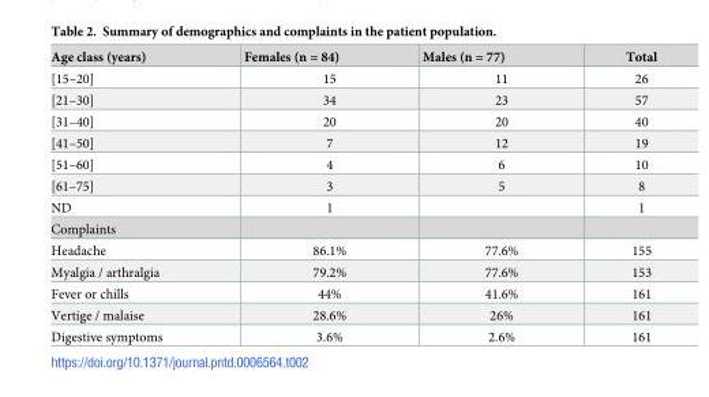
<table><thead><tr><td>Age class (years)</td><td>Females (n = 84)</td><td>Males (n = 77)</td><td>Total</td></tr></thead><tbody><tr><td>[15–20]</td><td>15</td><td>11</td><td>26</td></tr><tr><td>[21–30]</td><td>34</td><td>23</td><td>57</td></tr><tr><td>[31–40]</td><td>20</td><td>20</td><td>40</td></tr><tr><td>[41–50]</td><td>7</td><td>12</td><td>19</td></tr><tr><td>[51–60]</td><td>4</td><td>6</td><td>10</td></tr><tr><td>[61–75]</td><td>3</td><td>5</td><td>8</td></tr><tr><td>ND</td><td>1</td><td></td><td>1</td></tr><tr><td colspan="4">Complaints</td></tr><tr><td>Headache</td><td>86.1%</td><td>77.6%</td><td>155</td></tr><tr><td>Myalgia / arthralgia</td><td>79.2%</td><td>77.6%</td><td>153</td></tr><tr><td>Fever or chills</td><td>44%</td><td>41.6%</td><td>161</td></tr><tr><td>Vertige / malaise</td><td>28.6%</td><td>26%</td><td>161</td></tr><tr><td>Digestive symptoms</td><td>3.6%</td><td>2.6%</td><td>161</td></tr></tbody></table>